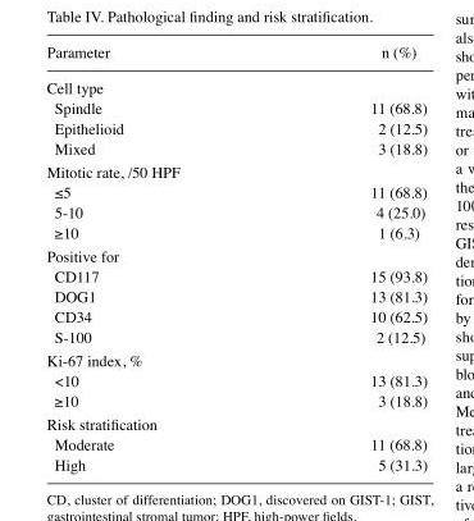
<table><thead><tr><td>Parameter</td><td>n (%)</td></tr></thead><tbody><tr><td colspan="2">Cell type</td></tr><tr><td>Spindle</td><td>11 (68.8)</td></tr><tr><td>Epithelioid</td><td>2 (12.5)</td></tr><tr><td>Mixed</td><td>3 (18.8)</td></tr><tr><td colspan="2">Mitotic rate, /50 HPF</td></tr><tr><td>≤5</td><td>11 (68.8)</td></tr><tr><td>5-10</td><td>4 (25.0)</td></tr><tr><td>≥10</td><td>1 (6.3)</td></tr><tr><td colspan="2">Positive for</td></tr><tr><td>CD117</td><td>15 (93.8)</td></tr><tr><td>DOG1</td><td>13 (81.3)</td></tr><tr><td>CD34</td><td>10 (62.5)</td></tr><tr><td>S-100</td><td>2 (12.5)</td></tr><tr><td colspan="2">Ki-67 index, %</td></tr><tr><td>&lt;10</td><td>13 (81.3)</td></tr><tr><td>≥10</td><td>3 (18.8)</td></tr><tr><td colspan="2">Risk stratification</td></tr><tr><td>Moderate</td><td>11 (68.8)</td></tr><tr><td>High</td><td>5 (31.3)</td></tr></tbody></table>